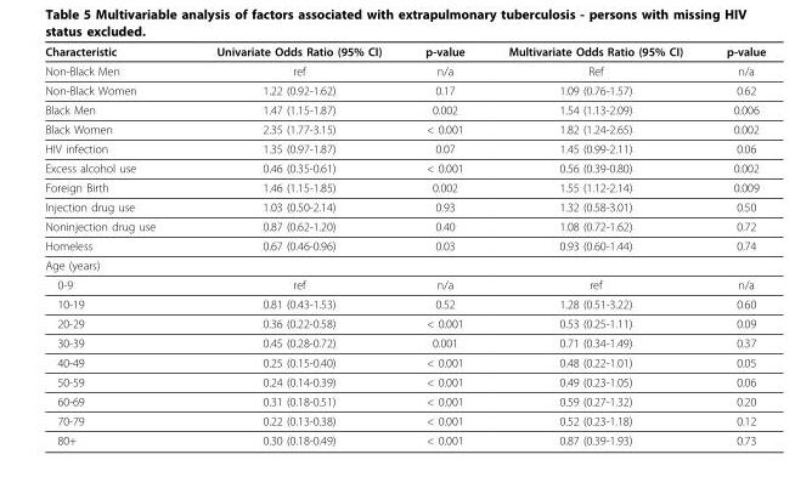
<table><thead><tr><td>Characteristic</td><td>Univariate Odds Ratio (95% CI)</td><td>p-value</td><td>Multivariate Odds Ratio (95% CI)</td><td>p-value</td></tr></thead><tbody><tr><td>Non-Black Men</td><td>ref</td><td>n/a</td><td>Ref</td><td>n/a</td></tr><tr><td>Non-Black Women</td><td>1.22 (0.92-1.62)</td><td>0.17</td><td>1.09 (0.76-1.57)</td><td>0.62</td></tr><tr><td>Black Men</td><td>1.47 (1.15-1.87)</td><td>0.002</td><td>1.54 (1.13-2.09)</td><td>0.006</td></tr><tr><td>Black Women</td><td>2.35 (1.77-3.15)</td><td>&lt; 0.001</td><td>1.82 (1.24-2.65)</td><td>0.002</td></tr><tr><td>HIV infection</td><td>1.35 (0.97-1.87)</td><td>0.07</td><td>1.45 (0.99-2.11)</td><td>0.06</td></tr><tr><td>Excess alcohol use</td><td>0.46 (0.35-0.61)</td><td>&lt; 0.001</td><td>0.56 (0.39-0.80)</td><td>0.002</td></tr><tr><td>Foreign Birth</td><td>1.46 (1.15-1.85)</td><td>0.002</td><td>1.55 (1.12-2.14)</td><td>0.009</td></tr><tr><td>Injection drug use</td><td>1.03 (0.50-2.14)</td><td>0.93</td><td>1.32 (0.58-3.01)</td><td>0.50</td></tr><tr><td>Noninjection drug use</td><td>0.87 (0.62-1.20)</td><td>0.40</td><td>1.08 (0.72-1.62)</td><td>0.72</td></tr><tr><td>Homeless</td><td>0.67 (0.46-0.96)</td><td>0.03</td><td>0.93 (0.60-1.44)</td><td>0.74</td></tr><tr><td colspan="5">Age (years)</td></tr><tr><td>0-9</td><td>ref</td><td>n/a</td><td>ref</td><td>n/a</td></tr><tr><td>10-19</td><td>0.81 (0.43-1.53)</td><td>0.52</td><td>1.28 (0.51-3.22)</td><td>0.60</td></tr><tr><td>20-29</td><td>0.36 (0.22-0.58)</td><td>&lt; 0.001</td><td>0.53 (0.25-1.11)</td><td>0.09</td></tr><tr><td>30-39</td><td>0.45 (0.28-0.72)</td><td>0.001</td><td>0.71 (0.34-1.49)</td><td>0.37</td></tr><tr><td>40-49</td><td>0.25 (0.15-0.40)</td><td>&lt; 0.001</td><td>0.48 (0.22-1.01)</td><td>0.05</td></tr><tr><td>50-59</td><td>0.24 (0.14-0.39)</td><td>&lt; 0.001</td><td>0.49 (0.23-1.05)</td><td>0.06</td></tr><tr><td>60-69</td><td>0.31 (0.18-0.51)</td><td>&lt; 0.001</td><td>0.59 (0.27-1.32)</td><td>0.20</td></tr><tr><td>70-79</td><td>0.22 (0.13-0.38)</td><td>&lt; 0.001</td><td>0.52 (0.23-1.18)</td><td>0.12</td></tr><tr><td>80+</td><td>0.30 (0.18-0.49)</td><td>&lt; 0.001</td><td>0.87 (0.39-1.93)</td><td>0.73</td></tr></tbody></table>